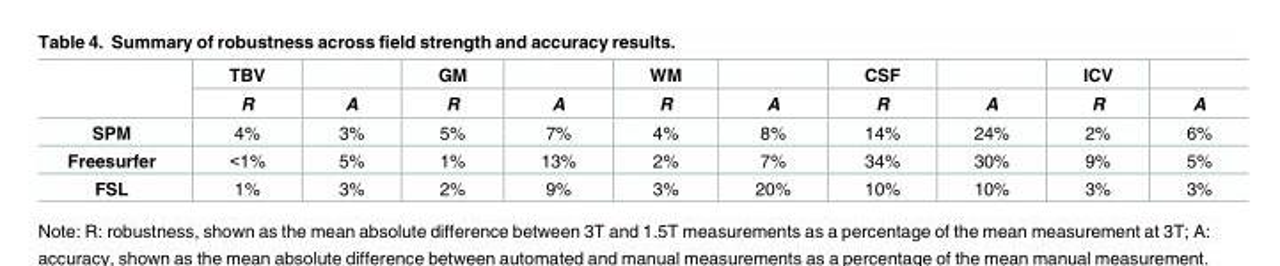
<table><thead><tr><td rowspan="2"></td><td rowspan="2">TBV R</td><td rowspan="2">A</td><td rowspan="2">GM R</td><td rowspan="2">A</td><td rowspan="2">WM R</td><td rowspan="2">A</td><td rowspan="2">CSF R</td><td rowspan="2">A</td><td rowspan="2">ICV R</td><td rowspan="2">A</td></tr><tr></tr></thead><tbody><tr><td>SPM</td><td>4%</td><td>3%</td><td>5%</td><td>7%</td><td>4%</td><td>8%</td><td>14%</td><td>24%</td><td>2%</td><td>6%</td></tr><tr><td>Freesurfer</td><td>&lt;1%</td><td>5%</td><td>1%</td><td>13%</td><td>2%</td><td>7%</td><td>34%</td><td>30%</td><td>9%</td><td>5%</td></tr><tr><td>FSL</td><td>1%</td><td>3%</td><td>2%</td><td>9%</td><td>3%</td><td>20%</td><td>10%</td><td>10%</td><td>3%</td><td>3%</td></tr></tbody></table>